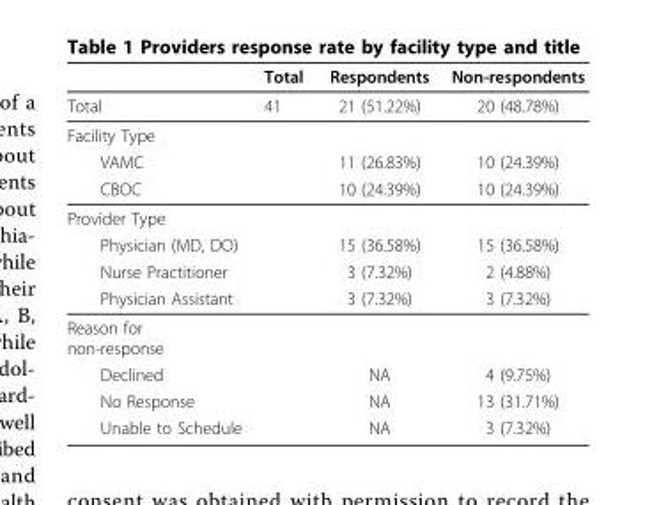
<table><thead><tr><td></td><td>Total</td><td>Respondents</td><td>Non-respondents</td></tr></thead><tbody><tr><td>Total</td><td>41</td><td>21 (51.22%)</td><td>20 (48.78%)</td></tr><tr><td colspan="4">Facility Type</td></tr><tr><td>VAMC</td><td></td><td>11 (26.83%)</td><td>10 (24.39%)</td></tr><tr><td>CBOC</td><td></td><td>10 (24.39%)</td><td>10 (24.39%)</td></tr><tr><td colspan="4">Provider Type</td></tr><tr><td>Physician (MD, DO)</td><td></td><td>15 (36.58%)</td><td>15 (36.58%)</td></tr><tr><td>Nurse Practitioner</td><td></td><td>3 (7.32%)</td><td>2 (4.88%)</td></tr><tr><td>Physician Assistant</td><td></td><td>3 (7.32%)</td><td>3 (7.32%)</td></tr><tr><td colspan="4">Reason for non-response</td></tr><tr><td>Declined</td><td></td><td>NA</td><td>4 (9.75%)</td></tr><tr><td>No Response</td><td></td><td>NA</td><td>13 (31.71%)</td></tr><tr><td>Unable to Schedule</td><td></td><td>NA</td><td>3 (7.32%)</td></tr></tbody></table>